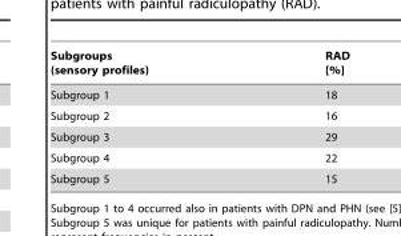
<table><thead><tr><td>Subgroups (sensory profiles)</td><td>RAD [%]</td></tr></thead><tbody><tr><td>Subgroup 1</td><td>18</td></tr><tr><td>Subgroup 2</td><td>16</td></tr><tr><td>Subgroup 3</td><td>29</td></tr><tr><td>Subgroup 4</td><td>22</td></tr><tr><td>Subgroup 5</td><td>15</td></tr></tbody></table>